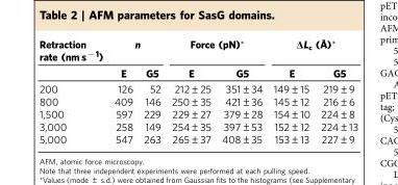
<table><thead><tr><td rowspan="2">Retraction rate (nm s <sup>− 1</sup>)</td><td colspan="2">n</td><td colspan="2">Force (pN)*</td><td colspan="2">ΔL<sub>c</sub> (Å)*</td></tr><tr><td>E</td><td>G5</td><td>E</td><td>G5</td><td>E</td><td>G5</td></tr></thead><tbody><tr><td>200</td><td>126</td><td>52</td><td>212±25</td><td>351±34</td><td>149±15</td><td>219±9</td></tr><tr><td>800</td><td>409</td><td>146</td><td>250±35</td><td>421±36</td><td>145±12</td><td>216±6</td></tr><tr><td>1,500</td><td>597</td><td>229</td><td>229±27</td><td>379±28</td><td>154±10</td><td>224±8</td></tr><tr><td>3,000</td><td>258</td><td>149</td><td>254±35</td><td>397±53</td><td>152±12</td><td>224±13</td></tr><tr><td>5,000</td><td>547</td><td>263</td><td>265±37</td><td>408±35</td><td>153±13</td><td>227±9</td></tr></tbody></table>